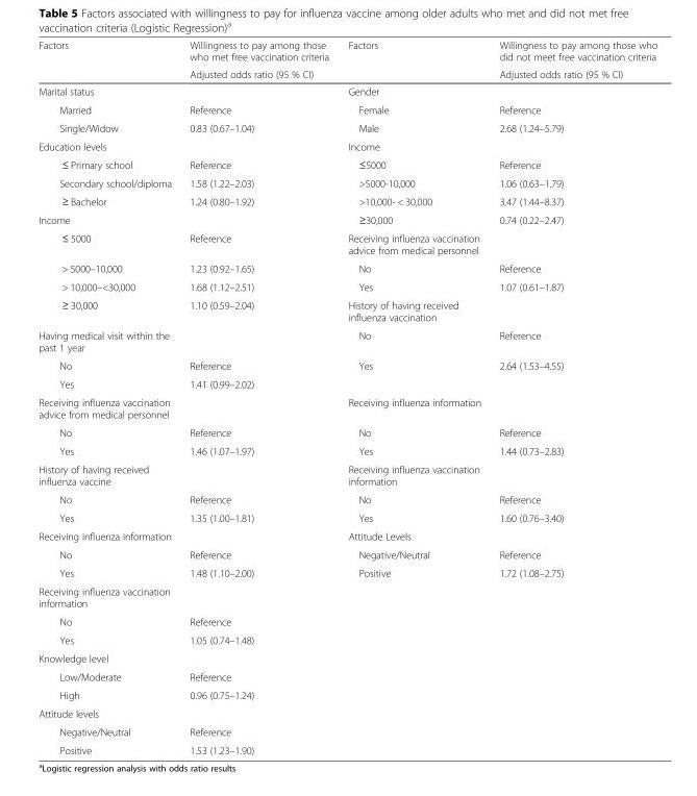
<table><thead><tr><td rowspan="2">Factors</td><td rowspan="2">Willingness to pay among those who met free vaccination criteria Adjusted odds ratio (95 % CI)</td><td rowspan="2">Factors</td><td rowspan="2">Willingness to pay among those who did not meet free vaccination criteria Adjusted odds ratio (95 % CI)</td></tr><tr></tr></thead><tbody><tr><td>Marital status</td><td></td><td>Gender</td><td></td></tr><tr><td>Married</td><td>Reference</td><td>Female</td><td>Reference</td></tr><tr><td>Single/Widow</td><td>0.83 (0.67–1.04)</td><td>Male</td><td>2.68 (1.24–5.79)</td></tr><tr><td>Education levels</td><td></td><td>Income</td><td></td></tr><tr><td>≤ Primary school</td><td>Reference</td><td>≤5000</td><td>Reference</td></tr><tr><td>Secondary school/diploma</td><td>1.58 (1.22–2.03)</td><td>&gt;5000-10,000</td><td>1.06 (0.63–1.79)</td></tr><tr><td>≥ Bachelor</td><td>1.24 (0.80–1.92)</td><td>&gt;10,000- &lt; 30,000</td><td>3.47 (1.44–8.37)</td></tr><tr><td>Income</td><td></td><td>≥30,000</td><td>0.74 (0.22–2.47)</td></tr><tr><td>≤ 5000</td><td>Reference</td><td>Receiving influenza vaccination advice from medical personnel</td><td></td></tr><tr><td>&gt; 5000–10,000</td><td>1.23 (0.92–1.65)</td><td>No</td><td>Reference</td></tr><tr><td>&gt; 10,000–&lt;30,000</td><td>1.68 (1.12–2.51)</td><td>Yes</td><td>1.07 (0.61–1.87)</td></tr><tr><td>≥ 30,000</td><td>1.10 (0.59–2.04)</td><td>History of having received influenza vaccination</td><td></td></tr><tr><td>Having medical visit within the past 1 year</td><td></td><td>No</td><td>Reference</td></tr><tr><td>No</td><td>Reference</td><td>Yes</td><td>2.64 (1.53–4.55)</td></tr><tr><td>Yes</td><td>1.41 (0.99–2.02)</td><td></td><td></td></tr><tr><td>Receiving influenza vaccination advice from medical personnel</td><td></td><td>Receiving influenza information</td><td></td></tr><tr><td>No</td><td>Reference</td><td>No</td><td>Reference</td></tr><tr><td>Yes</td><td>1.46 (1.07–1.97)</td><td>Yes</td><td>1.44 (0.73–2.83)</td></tr><tr><td>History of having received influenza vaccine</td><td></td><td>Receiving influenza vaccination information</td><td></td></tr><tr><td>No</td><td>Reference</td><td>No</td><td>Reference</td></tr><tr><td>Yes</td><td>1.35 (1.00–1.81)</td><td>Yes</td><td>1.60 (0.76–3.40)</td></tr><tr><td>Receiving influenza information</td><td></td><td>Attitude Levels</td><td></td></tr><tr><td>No</td><td>Reference</td><td>Negative/Neutral</td><td>Reference</td></tr><tr><td>Yes</td><td>1.48 (1.10–2.00)</td><td>Positive</td><td>1.72 (1.08–2.75)</td></tr><tr><td colspan="4">Receiving influenza vaccination information</td></tr><tr><td>No</td><td>Reference</td><td></td><td></td></tr><tr><td>Yes</td><td>1.05 (0.74–1.48)</td><td></td><td></td></tr><tr><td colspan="4">Knowledge level</td></tr><tr><td>Low/Moderate</td><td>Reference</td><td></td><td></td></tr><tr><td>High</td><td>0.96 (0.75–1.24)</td><td></td><td></td></tr><tr><td colspan="4">Attitude levels</td></tr><tr><td>Negative/Neutral</td><td>Reference</td><td></td><td></td></tr><tr><td>Positive</td><td>1.53 (1.23–1.90)</td><td></td><td></td></tr></tbody></table>